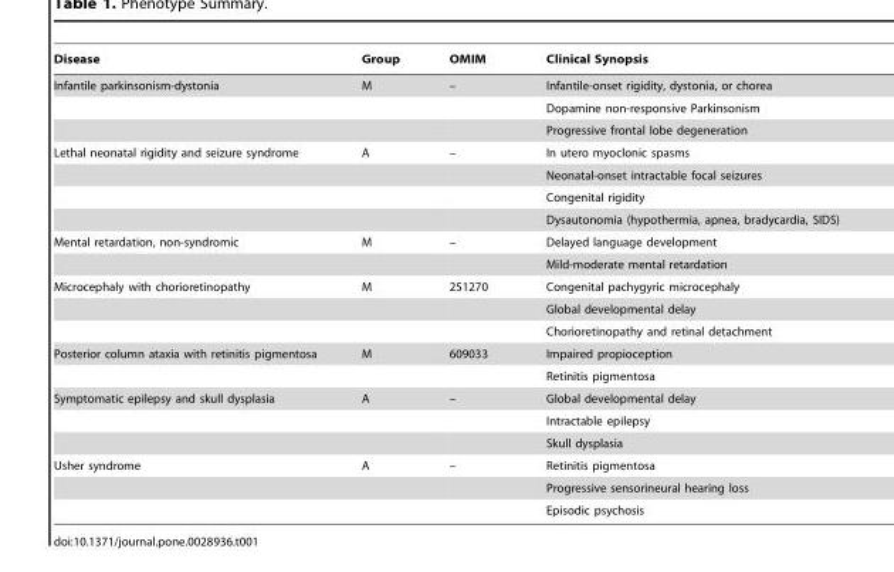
<table><thead><tr><td>Disease</td><td>Group</td><td>OMIM</td><td>Clinical Synopsis</td></tr></thead><tbody><tr><td rowspan="3">Infantile parkinsonism-dystonia</td><td>M</td><td>–</td><td>Infantile-onset rigidity, dystonia, or chorea</td></tr><tr><td></td><td></td><td>Dopamine non-responsive Parkinsonism</td></tr><tr><td></td><td></td><td>Progressive frontal lobe degeneration</td></tr><tr><td rowspan="4">Lethal neonatal rigidity and seizure syndrome</td><td>A</td><td>–</td><td>In utero myoclonic spasms</td></tr><tr><td></td><td></td><td>Neonatal-onset intractable focal seizures</td></tr><tr><td></td><td></td><td>Congenital rigidity</td></tr><tr><td></td><td></td><td>Dysautonomia (hypothermia, apnea, bradycardia, SIDS)</td></tr><tr><td rowspan="2">Mental retardation, non-syndromic</td><td>M</td><td>–</td><td>Delayed language development</td></tr><tr><td></td><td></td><td>Mild-moderate mental retardation</td></tr><tr><td rowspan="3">Microcephaly with chorioretinopathy</td><td>M</td><td>251270</td><td>Congenital pachygyric microcephaly</td></tr><tr><td></td><td></td><td>Global developmental delay</td></tr><tr><td></td><td></td><td>Chorioretinopathy and retinal detachment</td></tr><tr><td rowspan="2">Posterior column ataxia with retinitis pigmentosa</td><td>M</td><td>609033</td><td>Impaired propioception</td></tr><tr><td></td><td></td><td>Retinitis pigmentosa</td></tr><tr><td rowspan="3">Symptomatic epilepsy and skull dysplasia</td><td>A</td><td>–</td><td>Global developmental delay</td></tr><tr><td></td><td></td><td>Intractable epilepsy</td></tr><tr><td></td><td></td><td>Skull dysplasia</td></tr><tr><td rowspan="3">Usher syndrome</td><td>A</td><td>–</td><td>Retinitis pigmentosa</td></tr><tr><td></td><td></td><td>Progressive sensorineural hearing loss</td></tr><tr><td></td><td></td><td>Episodic psychosis</td></tr></tbody></table>